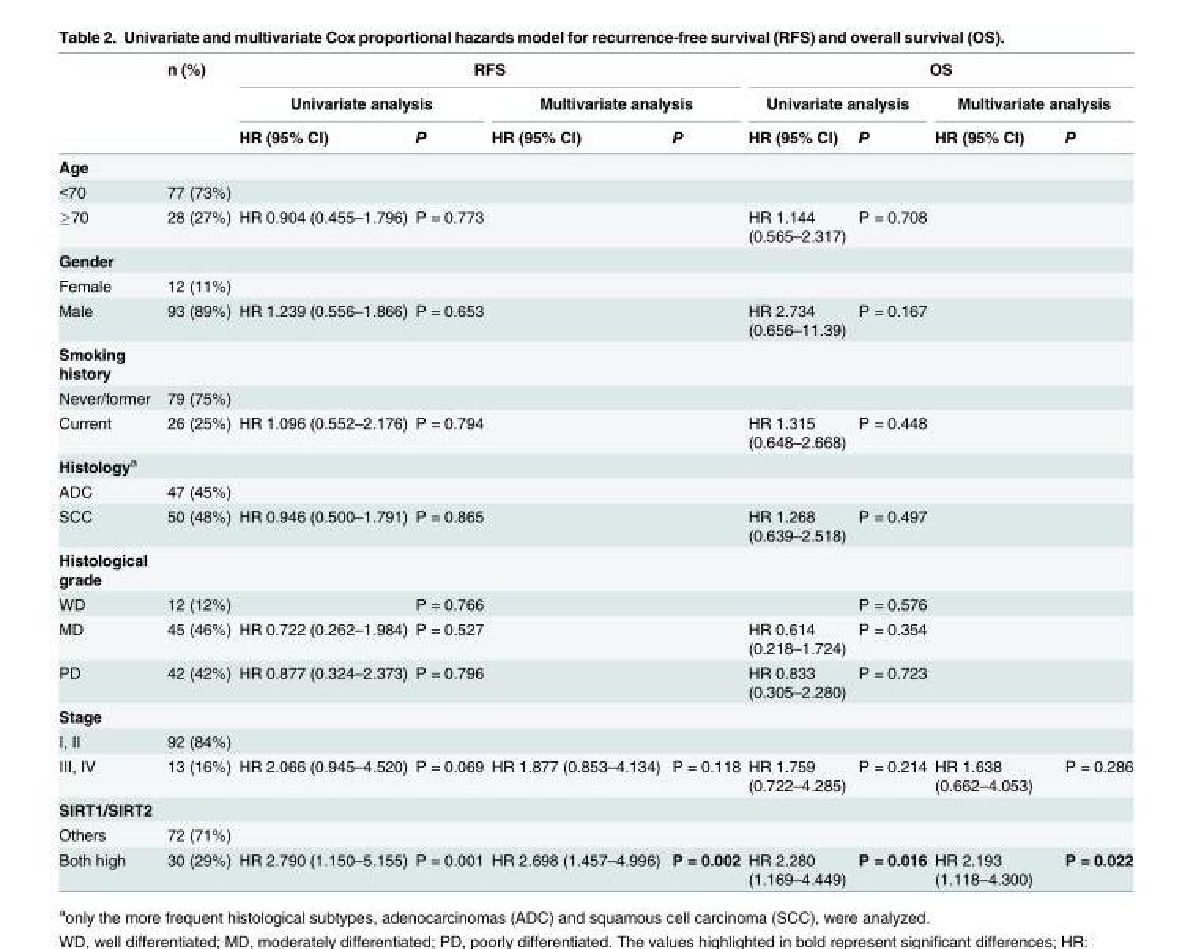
<table><thead><tr><td rowspan="3"></td><td rowspan="3">n (%)</td><td colspan="4">RFS</td><td colspan="4">OS</td></tr><tr><td colspan="2">Univariate analysis</td><td colspan="2">Multivariate analysis</td><td colspan="2">Univariate analysis</td><td colspan="2">Multivariate analysis</td></tr><tr><td>HR (95% CI)</td><td>P</td><td>HR (95% CI)</td><td>P</td><td>HR (95% CI)</td><td>P</td><td>HR (95% CI)</td><td>P</td></tr></thead><tbody><tr><td colspan="10">Age</td></tr><tr><td>&lt;70</td><td>77 (73%)</td><td></td><td></td><td></td><td></td><td></td><td></td><td></td><td></td></tr><tr><td>≥70</td><td>28 (27%)</td><td>HR 0.904 (0.455–1.796)</td><td>P = 0.773</td><td></td><td></td><td>HR 1.144 (0.565–2.317)</td><td>P = 0.708</td><td></td><td></td></tr><tr><td colspan="10">Gender</td></tr><tr><td>Female</td><td>12 (11%)</td><td></td><td></td><td></td><td></td><td></td><td></td><td></td><td></td></tr><tr><td>Male</td><td>93 (89%)</td><td>HR 1.239 (0.556–1.866)</td><td>P = 0.653</td><td></td><td></td><td>HR 2.734 (0.656–11.39)</td><td>P = 0.167</td><td></td><td></td></tr><tr><td colspan="10">Smoking history</td></tr><tr><td>Never/former</td><td>79 (75%)</td><td></td><td></td><td></td><td></td><td></td><td></td><td></td><td></td></tr><tr><td>Current</td><td>26 (25%)</td><td>HR 1.096 (0.552–2.176)</td><td>P = 0.794</td><td></td><td></td><td>HR 1.315 (0.648–2.668)</td><td>P = 0.448</td><td></td><td></td></tr><tr><td colspan="10">Histology<sup>a</sup></td></tr><tr><td>ADC</td><td>47 (45%)</td><td></td><td></td><td></td><td></td><td></td><td></td><td></td><td></td></tr><tr><td>SCC</td><td>50 (48%)</td><td>HR 0.946 (0.500–1.791)</td><td>P = 0.865</td><td></td><td></td><td>HR 1.268 (0.639–2.518)</td><td>P = 0.497</td><td></td><td></td></tr><tr><td colspan="10">Histological grade</td></tr><tr><td>WD</td><td>12 (12%)</td><td></td><td>P = 0.766</td><td></td><td></td><td></td><td>P = 0.576</td><td></td><td></td></tr><tr><td>MD</td><td>45 (46%)</td><td>HR 0.722 (0.262–1.984)</td><td>P = 0.527</td><td></td><td></td><td>HR 0.614 (0.218–1.724)</td><td>P = 0.354</td><td></td><td></td></tr><tr><td>PD</td><td>42 (42%)</td><td>HR 0.877 (0.324–2.373)</td><td>P = 0.796</td><td></td><td></td><td>HR 0.833 (0.305–2.280)</td><td>P = 0.723</td><td></td><td></td></tr><tr><td colspan="10">Stage</td></tr><tr><td>I, II</td><td>92 (84%)</td><td></td><td></td><td></td><td></td><td></td><td></td><td></td><td></td></tr><tr><td>III, IV</td><td>13 (16%)</td><td>HR 2.066 (0.945–4.520)</td><td>P = 0.069</td><td>HR 1.877 (0.853–4.134)</td><td>P = 0.118</td><td>HR 1.759 (0.722–4.285)</td><td>P = 0.214</td><td>HR 1.638 (0.662–4.053)</td><td>P = 0.286</td></tr><tr><td colspan="10">SIRT1/SIRT2</td></tr><tr><td>Others</td><td>72 (71%)</td><td></td><td></td><td></td><td></td><td></td><td></td><td></td><td></td></tr><tr><td>Both high</td><td>30 (29%)</td><td>HR 2.790 (1.150–5.155)</td><td>P = 0.001</td><td>HR 2.698 (1.457–4.996)</td><td>P = 0.002</td><td>HR 2.280 (1.169–4.449)</td><td>P = 0.016</td><td>HR 2.193 (1.118–4.300)</td><td>P = 0.022</td></tr></tbody></table>